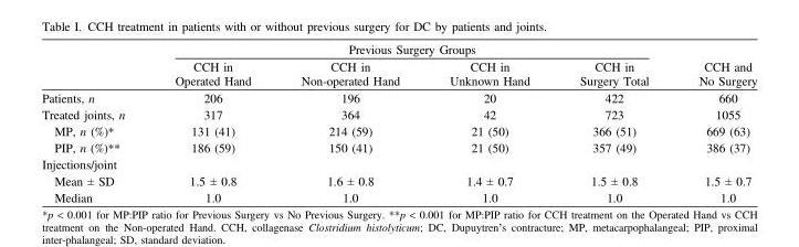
<table><thead><tr><td rowspan="2"></td><td colspan="4">Previous Surgery Groups</td><td rowspan="2">CCH and No Surgery</td></tr><tr><td>CCH in Operated Hand</td><td>CCH in Non-operated Hand</td><td>CCH in Unknown Hand</td><td>CCH in Surgery Total</td></tr></thead><tbody><tr><td>Patients, n</td><td>206</td><td>196</td><td>20</td><td>422</td><td>660</td></tr><tr><td>Treated joints, n</td><td>317</td><td>364</td><td>42</td><td>723</td><td>1055</td></tr><tr><td>MP, n (%)*</td><td>131 (41)</td><td>214 (59)</td><td>21 (50)</td><td>366 (51)</td><td>669 (63)</td></tr><tr><td>PIP, n (%)**</td><td>186 (59)</td><td>150 (41)</td><td>21 (50)</td><td>357 (49)</td><td>386 (37)</td></tr><tr><td colspan="6">Injections/joint</td></tr><tr><td>Mean ± SD</td><td>1.5 ± 0.8</td><td>1.6 ± 0.8</td><td>1.4 ± 0.7</td><td>1.5 ± 0.8</td><td>1.5 ± 0.7</td></tr><tr><td>Median</td><td>1.0</td><td>1.0</td><td>1.0</td><td>1.0</td><td>1.0</td></tr></tbody></table>